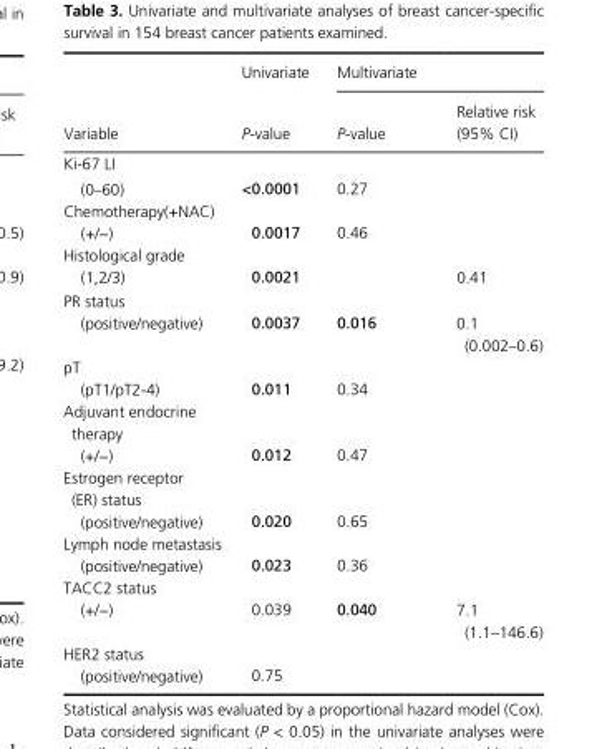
<table><thead><tr><td rowspan="2">Variable</td><td rowspan="2">Univariate P-value</td><td rowspan="2">Multivariate P-value</td><td rowspan="2">Relative risk (95% CI)</td></tr><tr></tr></thead><tbody><tr><td colspan="4">Ki- 67 LI</td></tr><tr><td>(0–60)</td><td>&lt;0.0001</td><td>0.27</td><td></td></tr><tr><td colspan="4">Chemotherapy(+NAC)</td></tr><tr><td>(+/−)</td><td>0.0017</td><td>0.46</td><td></td></tr><tr><td colspan="4">Histological grade</td></tr><tr><td>(1,2/3)</td><td>0.0021</td><td></td><td>0.41</td></tr><tr><td colspan="4">PR status</td></tr><tr><td>(positive/negative)</td><td>0.0037</td><td>0.016</td><td>0.1 (0.002–0.6)</td></tr><tr><td colspan="4">pT</td></tr><tr><td>(pT1/pT2- 4)</td><td>0.011</td><td>0.34</td><td></td></tr><tr><td colspan="4">Adjuvant endocrine therapy</td></tr><tr><td>(+/−)</td><td>0.012</td><td>0.47</td><td></td></tr><tr><td colspan="4">Estrogen receptor (ER) status</td></tr><tr><td>(positive/negative)</td><td>0.020</td><td>0.65</td><td></td></tr><tr><td colspan="4">Lymph node metastasis</td></tr><tr><td>(positive/negative)</td><td>0.023</td><td>0.36</td><td></td></tr><tr><td colspan="4">TACC2 status</td></tr><tr><td>(+/−)</td><td>0.039</td><td>0.040</td><td>7.1 (1.1–146.6)</td></tr><tr><td colspan="4">HER2 status</td></tr><tr><td>(positive/negative)</td><td>0.75</td><td></td><td></td></tr></tbody></table>